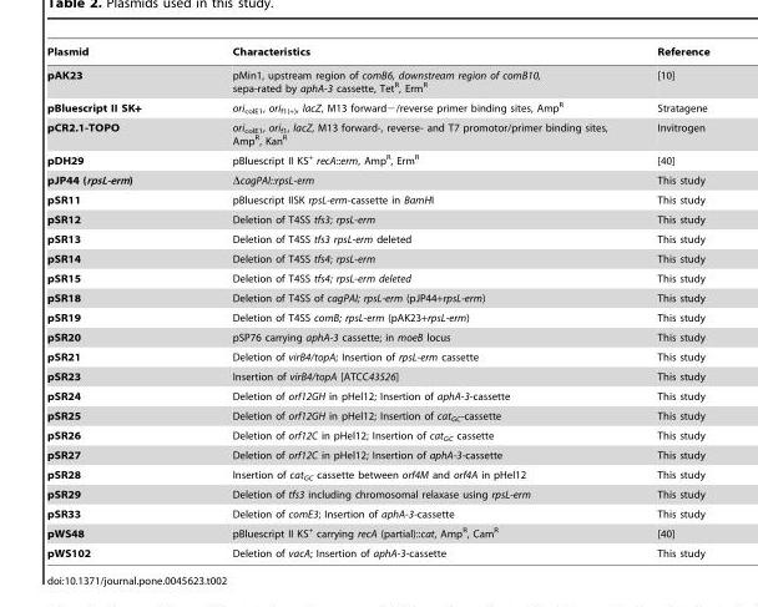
<table><thead><tr><td>Plasmid</td><td>Characteristics</td><td>Reference</td></tr></thead><tbody><tr><td>pAK23</td><td>pMin1, upstream region of comB6, downstream region of comB10, sepa-rated by aphA-3 cassette, Tet<sup>R</sup>, Erm<sup>R</sup></td><td>[10]</td></tr><tr><td>pBluescript II SK+</td><td>ori<sub>colE1</sub>, ori<sub>f1(+)</sub>, lacZ, M13 forward−/reverse primer binding sites, Amp<sup>R</sup></td><td>Stratagene</td></tr><tr><td>pCR2.1-TOPO</td><td>ori<sub>colE1</sub>, ori<sub>f1</sub>, lacZ, M13 forward-, reverse- and T7 promotor/primer binding sites, Amp<sup>R</sup>, Kan<sup>R</sup></td><td>Invitrogen</td></tr><tr><td>pDH29</td><td>pBluescript II KS<sup>+</sup> recA::erm, Amp<sup>R</sup>, Erm<sup>R</sup></td><td>[40]</td></tr><tr><td>pJP44 (rpsL-erm)</td><td>ΔcagPAI::rpsL-erm</td><td>This study</td></tr><tr><td>pSR11</td><td>pBluescript IISK rpsL-erm-cassette in BamHI</td><td>This study</td></tr><tr><td>pSR12</td><td>Deletion of T4SS tfs3; rpsL-erm</td><td>This study</td></tr><tr><td>pSR13</td><td>Deletion of T4SS tfs3 rpsL-erm deleted</td><td>This study</td></tr><tr><td>pSR14</td><td>Deletion of T4SS tfs4; rpsL-erm</td><td>This study</td></tr><tr><td>pSR15</td><td>Deletion of T4SS tfs4; rpsL-erm deleted</td><td>This study</td></tr><tr><td>pSR18</td><td>Deletion of T4SS of cagPAI; rpsL-erm (pJP44+rpsL-erm)</td><td>This study</td></tr><tr><td>pSR19</td><td>Deletion of T4SS comB; rpsL-erm (pAK23+rpsL-erm)</td><td>This study</td></tr><tr><td>pSR20</td><td>pSP76 carrying aphA-3 cassette; in moeB locus</td><td>This study</td></tr><tr><td>pSR21</td><td>Deletion of virB4/topA; Insertion of rpsL-erm cassette</td><td>This study</td></tr><tr><td>pSR23</td><td>Insertion of virB4/topA [ATCC43526]</td><td>This study</td></tr><tr><td>pSR24</td><td>Deletion of orf12GH in pHel12; Insertion of aphA-3-cassette</td><td>This study</td></tr><tr><td>pSR25</td><td>Deletion of orf12GH in pHel12; Insertion of cat<sub>GC</sub>-cassette</td><td>This study</td></tr><tr><td>pSR26</td><td>Deletion of orf12C in pHel12; Insertion of cat<sub>GC</sub> cassette</td><td>This study</td></tr><tr><td>pSR27</td><td>Deletion of orf12C in pHel12; Insertion of aphA-3-cassette</td><td>This study</td></tr><tr><td>pSR28</td><td>Insertion of cat<sub>GC</sub> cassette between orf4M and orf4A in pHel12</td><td>This study</td></tr><tr><td>pSR29</td><td>Deletion of tfs3 including chromosomal relaxase using rpsL-erm</td><td>This study</td></tr><tr><td>pSR33</td><td>Deletion of comE3; Insertion of aphA-3-cassette</td><td>This study</td></tr><tr><td>pWS48</td><td>pBluescript II KS<sup>+</sup> carrying recA (partial)::cat, Amp<sup>R</sup>, Cam<sup>R</sup></td><td>[40]</td></tr><tr><td>pWS102</td><td>Deletion of vacA; Insertion of aphA-3-cassette</td><td>This study</td></tr></tbody></table>